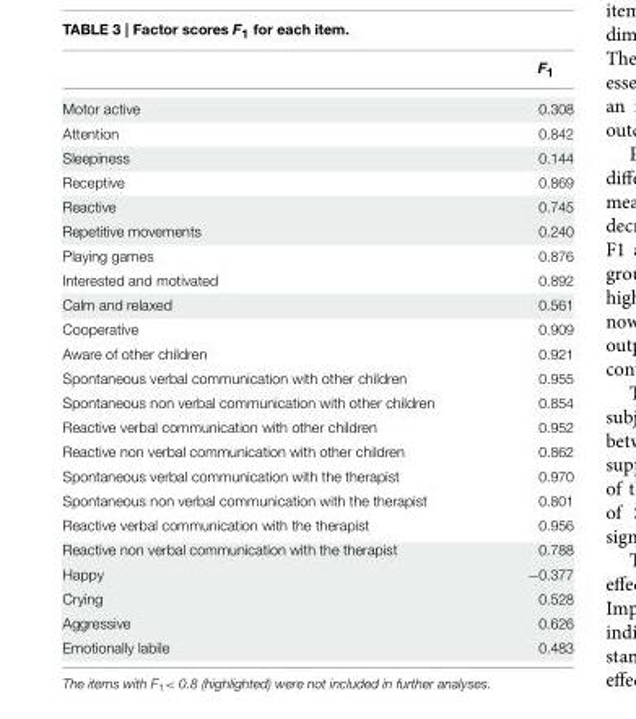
<table><thead><tr><td></td><td>F<sub>1</sub></td></tr></thead><tbody><tr><td>Motor active</td><td>0.308</td></tr><tr><td>Attention</td><td>0.842</td></tr><tr><td>Sleepiness</td><td>0.144</td></tr><tr><td>Receptive</td><td>0.869</td></tr><tr><td>Reactive</td><td>0.745</td></tr><tr><td>Repetitive movements</td><td>0.240</td></tr><tr><td>Playing games</td><td>0.876</td></tr><tr><td>Interested and motivated</td><td>0.892</td></tr><tr><td>Calm and relaxed</td><td>0.561</td></tr><tr><td>Cooperative</td><td>0.909</td></tr><tr><td>Aware of other children</td><td>0.921</td></tr><tr><td>Spontaneous verbal communication with other children</td><td>0.955</td></tr><tr><td>Spontaneous non verbal communication with other children</td><td>0.854</td></tr><tr><td>Reactive verbal communication with other children</td><td>0.952</td></tr><tr><td>Reactive non verbal communication with other children</td><td>0.862</td></tr><tr><td>Spontaneous verbal communication with the therapist</td><td>0.970</td></tr><tr><td>Spontaneous non verbal communication with the therapist</td><td>0.801</td></tr><tr><td>Reactive verbal communication with the therapist</td><td>0.956</td></tr><tr><td>Reactive non verbal communication with the therapist</td><td>0.788</td></tr><tr><td>Happy</td><td>−0.377</td></tr><tr><td>Crying</td><td>0.528</td></tr><tr><td>Aggressive</td><td>0.626</td></tr><tr><td>Emotionally labile</td><td>0.483</td></tr></tbody></table>